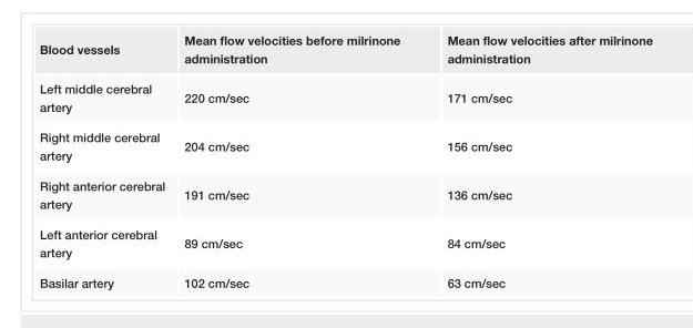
<table><tbody><tr><td>Blood vessels</td><td>Mean flow velocities before milrinone administration</td><td>Mean flow velocities after milrinone administration</td></tr><tr><td>Left middle cerebral artery</td><td>220 cm/sec</td><td>171 cm/sec</td></tr><tr><td>Right middle cerebral artery</td><td>204 cm/sec</td><td>156 cm/sec</td></tr><tr><td>Right anterior cerebral artery</td><td>191 cm/sec</td><td>136 cm/sec</td></tr><tr><td>Left anterior cerebral artery</td><td>89 cm/sec</td><td>84 cm/sec</td></tr><tr><td>Basilar artery</td><td>102 cm/sec</td><td>63 cm/sec</td></tr></tbody></table>